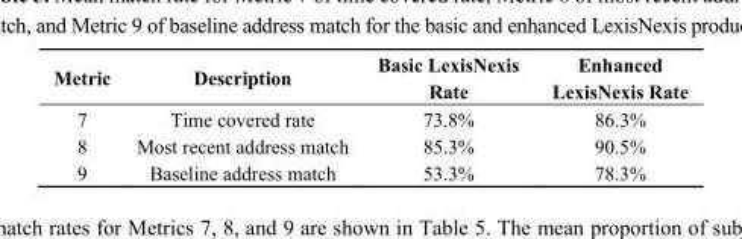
<table><thead><tr><td>Metric</td><td>Description</td><td>Basic LexisNexis Rate</td><td>Enhanced LexisNexis Rate</td></tr></thead><tbody><tr><td>7</td><td>Time covered rate</td><td>73.8%</td><td>86.3%</td></tr><tr><td>8</td><td>Most recent address match</td><td>85.3%</td><td>90.5%</td></tr><tr><td>9</td><td>Baseline address match</td><td>53.3%</td><td>78.3%</td></tr></tbody></table>